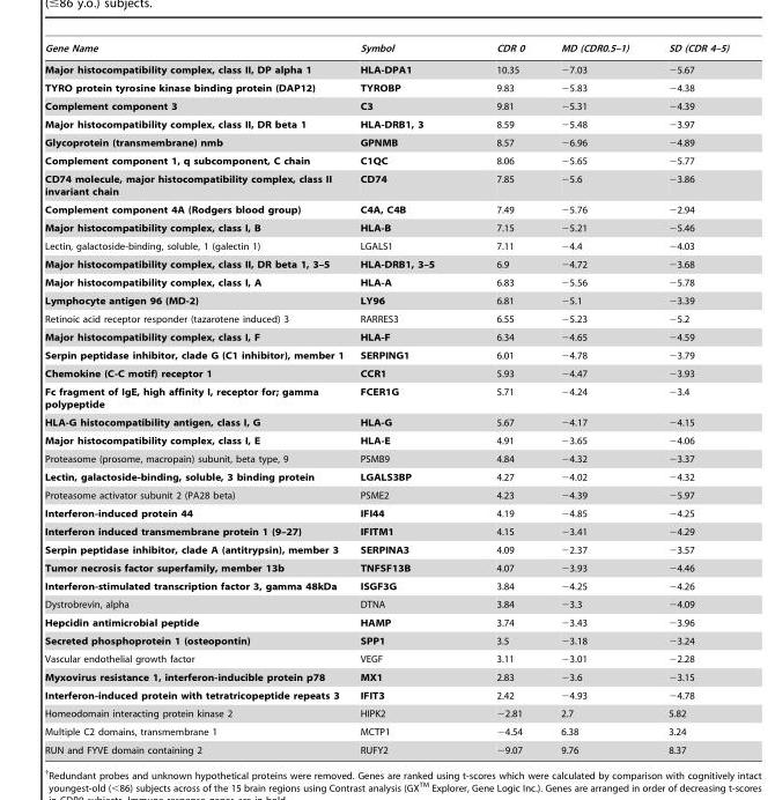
<table><thead><tr><td>Gene Name</td><td>Symbol</td><td>CDR 0</td><td>MD (CDR0.5–1)</td><td>SD (CDR 4–5)</td></tr></thead><tbody><tr><td>Major histocompatibility complex, class II, DP alpha 1</td><td>HLA-DPA1</td><td>10.35</td><td>−7.03</td><td>−5.67</td></tr><tr><td>TYRO protein tyrosine kinase binding protein (DAP12)</td><td>TYROBP</td><td>9.83</td><td>−5.83</td><td>−4.38</td></tr><tr><td>Complement component 3</td><td>C3</td><td>9.81</td><td>−5.31</td><td>−4.39</td></tr><tr><td>Major histocompatibility complex, class II, DR beta 1</td><td>HLA-DRB1, 3</td><td>8.59</td><td>−5.48</td><td>−3.97</td></tr><tr><td>Glycoprotein (transmembrane) nmb</td><td>GPNMB</td><td>8.57</td><td>−6.96</td><td>−4.89</td></tr><tr><td>Complement component 1, q subcomponent, C chain</td><td>C1QC</td><td>8.06</td><td>−5.65</td><td>−5.77</td></tr><tr><td>CD74 molecule, major histocompatibility complex, class II invariant chain</td><td>CD74</td><td>7.85</td><td>−5.6</td><td>−3.86</td></tr><tr><td>Complement component 4A (Rodgers blood group)</td><td>C4A, C4B</td><td>7.49</td><td>−5.76</td><td>−2.94</td></tr><tr><td>Major histocompatibility complex, class I, B</td><td>HLA-B</td><td>7.15</td><td>−5.21</td><td>−5.46</td></tr><tr><td>Lectin, galactoside-binding, soluble, 1 (galectin 1)</td><td>LGALS1</td><td>7.11</td><td>−4.4</td><td>−4.03</td></tr><tr><td>Major histocompatibility complex, class II, DR beta 1, 3–5</td><td>HLA-DRB1, 3–5</td><td>6.9</td><td>−4.72</td><td>−3.68</td></tr><tr><td>Major histocompatibility complex, class I, A</td><td>HLA-A</td><td>6.83</td><td>−5.56</td><td>−5.78</td></tr><tr><td>Lymphocyte antigen 96 (MD-2)</td><td>LY96</td><td>6.81</td><td>−5.1</td><td>−3.39</td></tr><tr><td>Retinoic acid receptor responder (tazarotene induced) 3</td><td>RARRES3</td><td>6.55</td><td>−5.23</td><td>−5.2</td></tr><tr><td>Major histocompatibility complex, class I, F</td><td>HLA-F</td><td>6.34</td><td>−4.65</td><td>−4.59</td></tr><tr><td>Serpin peptidase inhibitor, clade G (C1 inhibitor), member 1</td><td>SERPING1</td><td>6.01</td><td>−4.78</td><td>−3.79</td></tr><tr><td>Chemokine (C-C motif) receptor 1</td><td>CCR1</td><td>5.93</td><td>−4.47</td><td>−3.93</td></tr><tr><td>Fc fragment of IgE, high affinity I, receptor for; gamma polypeptide</td><td>FCER1G</td><td>5.71</td><td>−4.24</td><td>−3.4</td></tr><tr><td>HLA-G histocompatibility antigen, class I, G</td><td>HLA-G</td><td>5.67</td><td>−4.17</td><td>−4.15</td></tr><tr><td>Major histocompatibility complex, class I, E</td><td>HLA-E</td><td>4.91</td><td>−3.65</td><td>−4.06</td></tr><tr><td>Proteasome (prosome, macropain) subunit, beta type, 9</td><td>PSMB9</td><td>4.84</td><td>−4.32</td><td>−3.37</td></tr><tr><td>Lectin, galactoside-binding, soluble, 3 binding protein</td><td>LGALS3BP</td><td>4.27</td><td>−4.02</td><td>−4.32</td></tr><tr><td>Proteasome activator subunit 2 (PA28 beta)</td><td>PSME2</td><td>4.23</td><td>−4.39</td><td>−5.97</td></tr><tr><td>Interferon-induced protein 44</td><td>IFI44</td><td>4.19</td><td>−4.85</td><td>−4.25</td></tr><tr><td>Interferon induced transmembrane protein 1 (9–27)</td><td>IFITM1</td><td>4.15</td><td>−3.41</td><td>−4.29</td></tr><tr><td>Serpin peptidase inhibitor, clade A (antitrypsin), member 3</td><td>SERPINA3</td><td>4.09</td><td>−2.37</td><td>−3.57</td></tr><tr><td>Tumor necrosis factor superfamily, member 13b</td><td>TNFSF13B</td><td>4.07</td><td>−3.93</td><td>−4.46</td></tr><tr><td>Interferon-stimulated transcription factor 3, gamma 48kDa</td><td>ISGF3G</td><td>3.84</td><td>−4.25</td><td>−4.26</td></tr><tr><td>Dystrobrevin, alpha</td><td>DTNA</td><td>3.84</td><td>−3.3</td><td>−4.09</td></tr><tr><td>Hepcidin antimicrobial peptide</td><td>HAMP</td><td>3.74</td><td>−3.43</td><td>−3.96</td></tr><tr><td>Secreted phosphoprotein 1 (osteopontin)</td><td>SPP1</td><td>3.5</td><td>−3.18</td><td>−3.24</td></tr><tr><td>Vascular endothelial growth factor</td><td>VEGF</td><td>3.11</td><td>−3.01</td><td>−2.28</td></tr><tr><td>Myxovirus resistance 1, interferon-inducible protein p78</td><td>MX1</td><td>2.83</td><td>−3.6</td><td>−3.15</td></tr><tr><td>Interferon-induced protein with tetratricopeptide repeats 3</td><td>IFIT3</td><td>2.42</td><td>−4.93</td><td>−4.78</td></tr><tr><td>Homeodomain interacting protein kinase 2</td><td>HIPK2</td><td>−2.81</td><td>2.7</td><td>5.82</td></tr><tr><td>Multiple C2 domains, transmembrane 1</td><td>MCTP1</td><td>−4.54</td><td>6.38</td><td>3.24</td></tr><tr><td>RUN and FYVE domain containing 2</td><td>RUFY2</td><td>−9.07</td><td>9.76</td><td>8.37</td></tr></tbody></table>